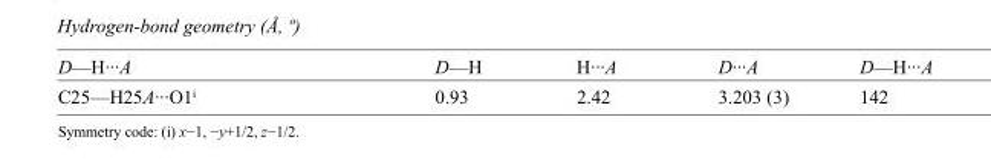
<table><tbody><tr><td>D—H···A</td><td>D—H</td><td>H···A</td><td>D···A</td><td>D—H···A</td></tr><tr><td>C25—H25A···O1<sup>i</sup></td><td>0.93</td><td>2.42</td><td>3.203 (3)</td><td>142</td></tr></tbody></table>